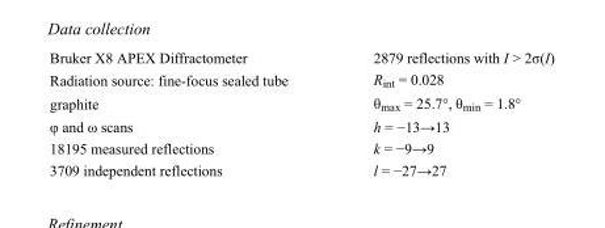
<table><tbody><tr><td>Bruker X8 APEX Diffractometer</td><td>2879 reflections with I &gt; 2σ(I)</td></tr><tr><td>Radiation source: fine-focus sealed tube</td><td>R<sub>int</sub> = 0.028</td></tr><tr><td>graphite</td><td>θ<sub>max</sub> = 25.7°, θ<sub>min</sub> = 1.8°</td></tr><tr><td>φ and ω scans</td><td>h = −13→13</td></tr><tr><td>18195 measured reflections</td><td>k = −9→9</td></tr><tr><td>3709 independent reflections</td><td>l = −27→27</td></tr></tbody></table>